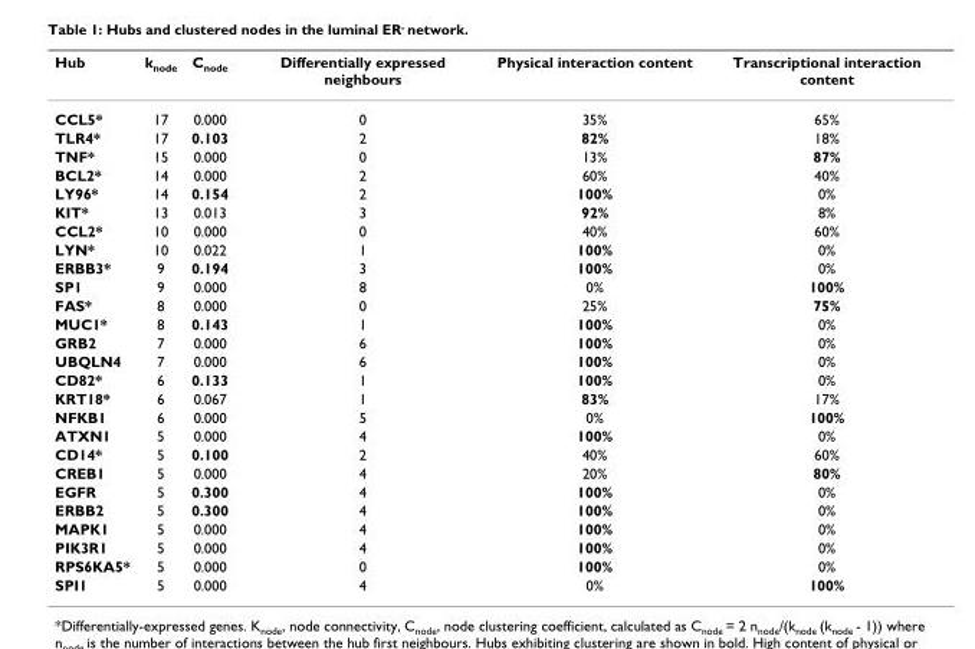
<table><thead><tr><td>Hub</td><td>k<sub>node</sub></td><td>C<sub>node</sub></td><td>Differentially expressed neighbours</td><td>Physical interaction content</td><td>Transcriptional interaction content</td></tr></thead><tbody><tr><td>CCL5*</td><td>17</td><td>0.000</td><td>0</td><td>35%</td><td>65%</td></tr><tr><td>TLR4*</td><td>17</td><td>0.103</td><td>2</td><td>82%</td><td>18%</td></tr><tr><td>TNF*</td><td>15</td><td>0.000</td><td>0</td><td>13%</td><td>87%</td></tr><tr><td>BCL2*</td><td>14</td><td>0.000</td><td>2</td><td>60%</td><td>40%</td></tr><tr><td>LY96*</td><td>14</td><td>0.154</td><td>2</td><td>100%</td><td>0%</td></tr><tr><td>KIT*</td><td>13</td><td>0.013</td><td>3</td><td>92%</td><td>8%</td></tr><tr><td>CCL2*</td><td>10</td><td>0.000</td><td>0</td><td>40%</td><td>60%</td></tr><tr><td>LYN*</td><td>10</td><td>0.022</td><td>1</td><td>100%</td><td>0%</td></tr><tr><td>ERBB3*</td><td>9</td><td>0.194</td><td>3</td><td>100%</td><td>0%</td></tr><tr><td>SP1</td><td>9</td><td>0.000</td><td>8</td><td>0%</td><td>100%</td></tr><tr><td>FAS*</td><td>8</td><td>0.000</td><td>0</td><td>25%</td><td>75%</td></tr><tr><td>MUC1*</td><td>8</td><td>0.143</td><td>1</td><td>100%</td><td>0%</td></tr><tr><td>GRB2</td><td>7</td><td>0.000</td><td>6</td><td>100%</td><td>0%</td></tr><tr><td>UBQLN4</td><td>7</td><td>0.000</td><td>6</td><td>100%</td><td>0%</td></tr><tr><td>CD82*</td><td>6</td><td>0.133</td><td>1</td><td>100%</td><td>0%</td></tr><tr><td>KRT18*</td><td>6</td><td>0.067</td><td>1</td><td>83%</td><td>17%</td></tr><tr><td>NFKB1</td><td>6</td><td>0.000</td><td>5</td><td>0%</td><td>100%</td></tr><tr><td>ATXN1</td><td>5</td><td>0.000</td><td>4</td><td>100%</td><td>0%</td></tr><tr><td>CD14*</td><td>5</td><td>0.100</td><td>2</td><td>40%</td><td>60%</td></tr><tr><td>CREB1</td><td>5</td><td>0.000</td><td>4</td><td>20%</td><td>80%</td></tr><tr><td>EGFR</td><td>5</td><td>0.300</td><td>4</td><td>100%</td><td>0%</td></tr><tr><td>ERBB2</td><td>5</td><td>0.300</td><td>4</td><td>100%</td><td>0%</td></tr><tr><td>MAPK1</td><td>5</td><td>0.000</td><td>4</td><td>100%</td><td>0%</td></tr><tr><td>PIK3R1</td><td>5</td><td>0.000</td><td>4</td><td>100%</td><td>0%</td></tr><tr><td>RPS6KA5*</td><td>5</td><td>0.000</td><td>0</td><td>100%</td><td>0%</td></tr><tr><td>SPI1</td><td>5</td><td>0.000</td><td>4</td><td>0%</td><td>100%</td></tr></tbody></table>